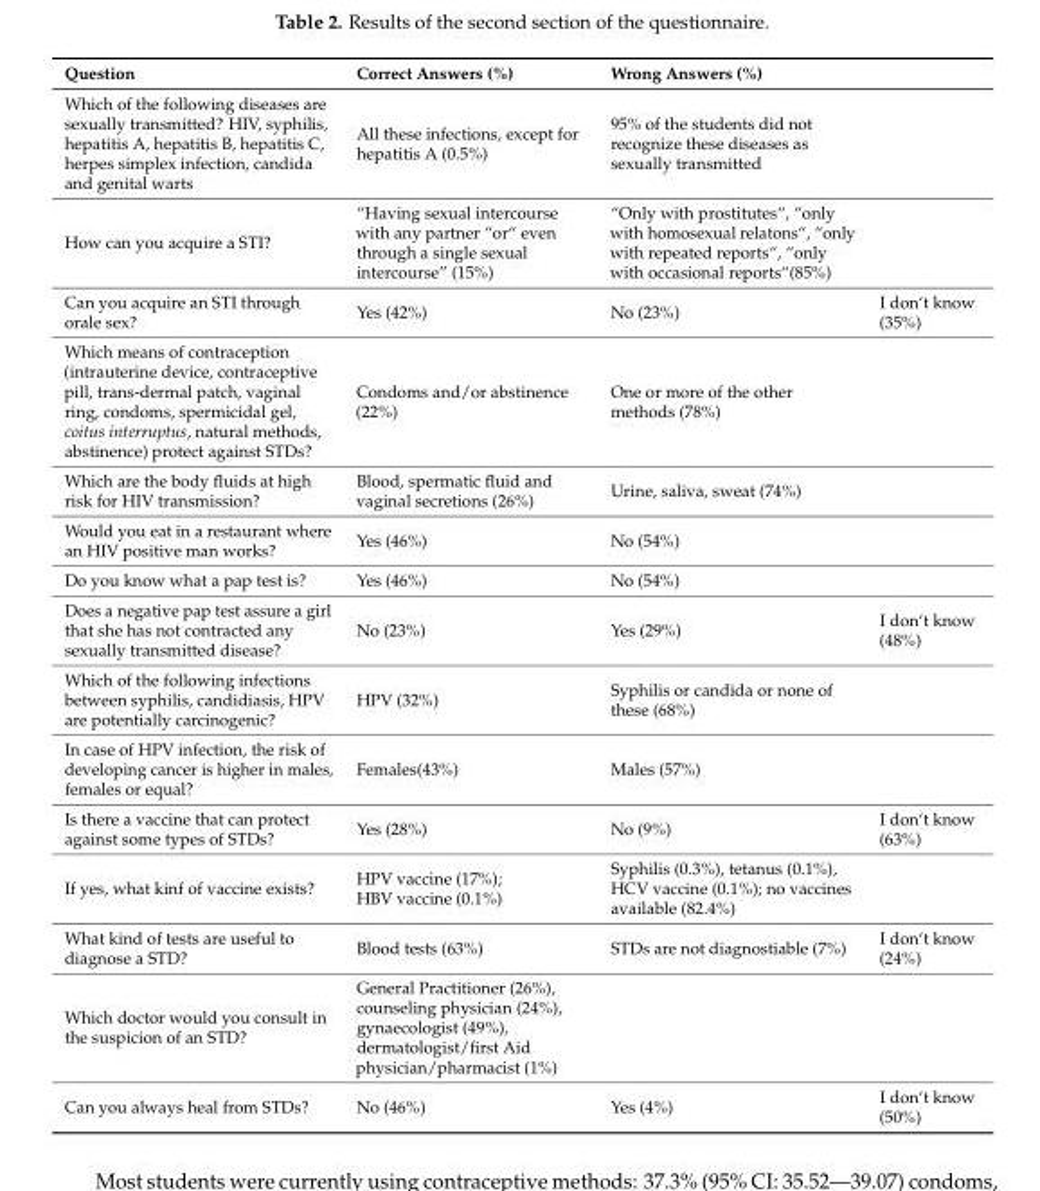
<table><thead><tr><td>Question</td><td>Correct Answers (%)</td><td>Wrong Answers (%)</td><td></td></tr></thead><tbody><tr><td>Which of the following diseases are sexually transmitted? HIV, syphilis, hepatitis A, hepatitis B, hepatitis C, herpes simplex infection, candida and genital warts</td><td>All these infections, except for hepatitis A (0.5%)</td><td>95% of the students did not recognize these diseases as sexually transmitted</td><td></td></tr><tr><td>How can you acquire a STI?</td><td>“Having sexual intercourse with any partner “or“ even through a single sexual intercourse” (15%)</td><td>“Only with prostitutes“, “only with homosexual relatons“, “only with repeated reports“, “only with occasional reports“(85%)</td><td></td></tr><tr><td>Can you acquire an STI through orale sex?</td><td>Yes (42%)</td><td>No (23%)</td><td>I don‘t know (35%)</td></tr><tr><td>Which means of contraception (intrauterine device, contraceptive pill, trans-dermal patch, vaginal ring, condoms, spermicidal gel, coitus interruptus, natural methods, abstinence) protect against STDs?</td><td>Condoms and/or abstinence (22%)</td><td>One or more of the other methods (78%)</td><td></td></tr><tr><td>Which are the body fluids at high risk for HIV transmission?</td><td>Blood, spermatic fluid and vaginal secretions (26%)</td><td>Urine, saliva, sweat (74%)</td><td></td></tr><tr><td>Would you eat in a restaurant where an HIV positive man works?</td><td>Yes (46%)</td><td>No (54%)</td><td></td></tr><tr><td>Do you know what a pap test is?</td><td>Yes (46%)</td><td>No (54%)</td><td></td></tr><tr><td>Does a negative pap test assure a girl that she has not contracted any sexually transmitted disease?</td><td>No (23%)</td><td>Yes (29%)</td><td>I don‘t know (48%)</td></tr><tr><td>Which of the following infections between syphilis, candidiasis, HPV are potentially carcinogenic?</td><td>HPV (32%)</td><td>Syphilis or candida or none of these (68%)</td><td></td></tr><tr><td>In case of HPV infection, the risk of developing cancer is higher in males, females or equal?</td><td>Females(43%)</td><td>Males (57%)</td><td></td></tr><tr><td>Is there a vaccine that can protect against some types of STDs?</td><td>Yes (28%)</td><td>No (9%)</td><td>I don‘t know (63%)</td></tr><tr><td>If yes, what kinf of vaccine exists?</td><td>HPV vaccine (17%); HBV vaccine (0.1%)</td><td>Syphilis (0.3%), tetanus (0.1%), HCV vaccine (0.1%); no vaccines available (82.4%)</td><td></td></tr><tr><td>What kind of tests are useful to diagnose a STD?</td><td>Blood tests (63%)</td><td>STDs are not diagnostiable (7%)</td><td>I don‘t know (24%)</td></tr><tr><td>Which doctor would you consult in the suspicion of an STD?</td><td>General Practitioner (26%), counseling physician (24%), gynaecologist (49%), dermatologist/first Aid physician/pharmacist (1%)</td><td></td><td></td></tr><tr><td>Can you always heal from STDs?</td><td>No (46%)</td><td>Yes (4%)</td><td>I don‘t know (50%)</td></tr></tbody></table>